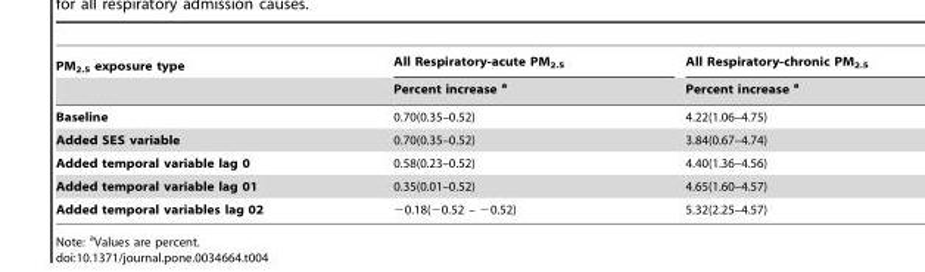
<table><thead><tr><td rowspan="2">PM<sub>2.5</sub> exposure type</td><td rowspan="2">All Respiratory-acute PM<sub>2.5</sub> Percent increase <sup>a</sup></td><td rowspan="2">All Respiratory-chronic PM<sub>2.5</sub> Percent increase <sup>a</sup></td></tr><tr></tr></thead><tbody><tr><td>Baseline</td><td>0.70(0.35–0.52)</td><td>4.22(1.06–4.75)</td></tr><tr><td>Added SES variable</td><td>0.70(0.35–0.52)</td><td>3.84(0.67–4.74)</td></tr><tr><td>Added temporal variable lag 0</td><td>0.58(0.23–0.52)</td><td>4.40(1.36–4.56)</td></tr><tr><td>Added temporal variable lag 01</td><td>0.35(0.01–0.52)</td><td>4.65(1.60–4.57)</td></tr><tr><td>Added temporal variables lag 02</td><td>−0.18(−0.52 – −0.52)</td><td>5.32(2.25–4.57)</td></tr></tbody></table>